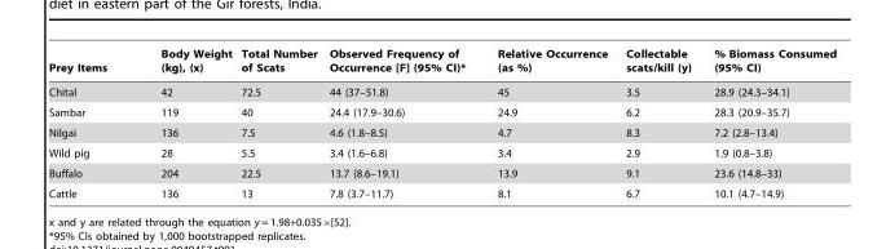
<table><thead><tr><td>Prey Items</td><td>Body Weight (kg), (x)</td><td>Total Number of Scats</td><td>Observed Frequency of Occurrence [F] (95% CI)*</td><td>Relative Occurrence (as %)</td><td>Collectable scats/kill (y)</td><td>% Biomass Consumed (95% CI)</td></tr></thead><tbody><tr><td>Chital</td><td>42</td><td>72.5</td><td>44 (37–51.8)</td><td>45</td><td>3.5</td><td>28.9 (24.3–34.1)</td></tr><tr><td>Sambar</td><td>119</td><td>40</td><td>24.4 (17.9–30.6)</td><td>24.9</td><td>6.2</td><td>28.3 (20.9–35.7)</td></tr><tr><td>Nilgai</td><td>136</td><td>7.5</td><td>4.6 (1.8–8.5)</td><td>4.7</td><td>8.3</td><td>7.2 (2.8–13.4)</td></tr><tr><td>Wild pig</td><td>28</td><td>5.5</td><td>3.4 (1.6–6.8)</td><td>3.4</td><td>2.9</td><td>1.9 (0.8–3.8)</td></tr><tr><td>Buffalo</td><td>204</td><td>22.5</td><td>13.7 (8.6–19.1)</td><td>13.9</td><td>9.1</td><td>23.6 (14.8–33)</td></tr><tr><td>Cattle</td><td>136</td><td>13</td><td>7.8 (3.7–11.7)</td><td>8.1</td><td>6.7</td><td>10.1 (4.7–14.9)</td></tr></tbody></table>